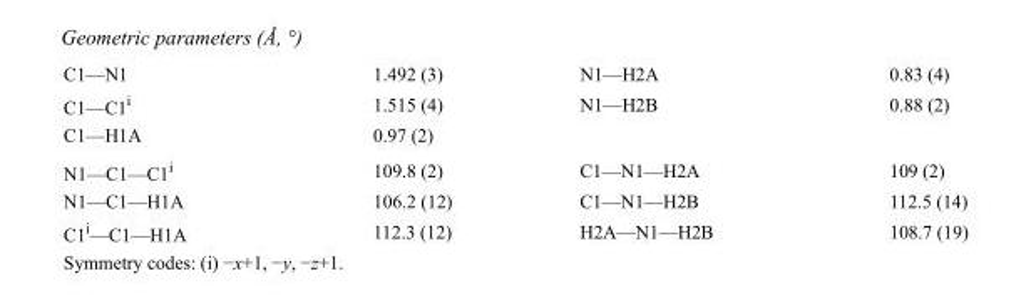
<table><tbody><tr><td>C1—N1</td><td>1.492 (3)</td><td>N1—H2A</td><td>0.83 (4)</td></tr><tr><td>C1—C1<sup>i</sup></td><td>1.515 (4)</td><td>N1—H2B</td><td>0.88 (2)</td></tr><tr><td>C1—H1A</td><td>0.97 (2)</td><td></td><td></td></tr><tr><td>N1—C1—C1<sup>i</sup></td><td>109.8 (2)</td><td>C1—N1—H2A</td><td>109 (2)</td></tr><tr><td>N1—C1—H1A</td><td>106.2 (12)</td><td>C1—N1—H2B</td><td>112.5 (14)</td></tr><tr><td>C1<sup>i</sup>—C1—H1A</td><td>112.3 (12)</td><td>H2A—N1—H2B</td><td>108.7 (19)</td></tr></tbody></table>